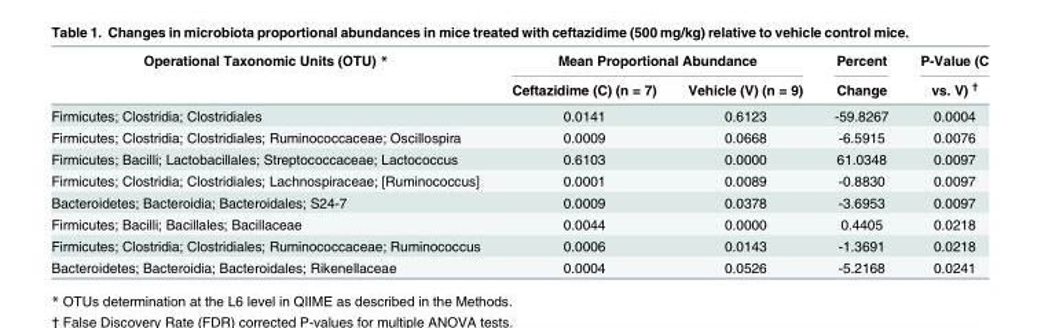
<table><thead><tr><td rowspan="2">Operational Taxonomic Units (OTU) *</td><td colspan="2">Mean Proportional Abundance</td><td rowspan="2">Percent Change</td><td rowspan="2">P-Value (C vs. V) <sup>†</sup></td></tr><tr><td>Ceftazidime (C) (n = 7)</td><td>Vehicle (V) (n = 9)</td></tr></thead><tbody><tr><td>Firmicutes; Clostridia; Clostridiales</td><td>0.0141</td><td>0.6123</td><td>-59.8267</td><td>0.0004</td></tr><tr><td>Firmicutes; Clostridia; Clostridiales; Ruminococcaceae; Oscillospira</td><td>0.0009</td><td>0.0668</td><td>-6.5915</td><td>0.0076</td></tr><tr><td>Firmicutes; Bacilli; Lactobacillales; Streptococcaceae; Lactococcus</td><td>0.6103</td><td>0.0000</td><td>61.0348</td><td>0.0097</td></tr><tr><td>Firmicutes; Clostridia; Clostridiales; Lachnospiraceae; [Ruminococcus]</td><td>0.0001</td><td>0.0089</td><td>-0.8830</td><td>0.0097</td></tr><tr><td>Bacteroidetes; Bacteroidia; Bacteroidales; S24-7</td><td>0.0009</td><td>0.0378</td><td>-3.6953</td><td>0.0097</td></tr><tr><td>Firmicutes; Bacilli; Bacillales; Bacillaceae</td><td>0.0044</td><td>0.0000</td><td>0.4405</td><td>0.0218</td></tr><tr><td>Firmicutes; Clostridia; Clostridiales; Ruminococcaceae; Ruminococcus</td><td>0.0006</td><td>0.0143</td><td>-1.3691</td><td>0.0218</td></tr><tr><td>Bacteroidetes; Bacteroidia; Bacteroidales; Rikenellaceae</td><td>0.0004</td><td>0.0526</td><td>-5.2168</td><td>0.0241</td></tr></tbody></table>